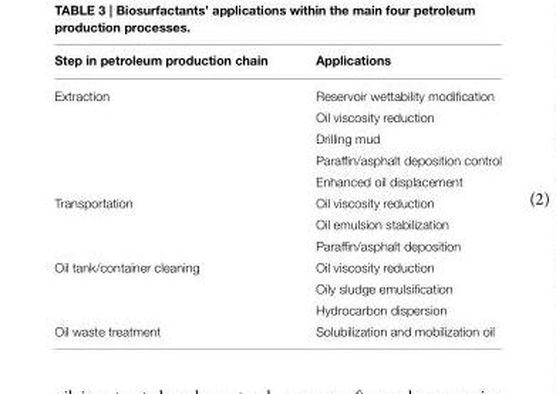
<table><thead><tr><td>Step in petroleum production chain</td><td>Applications</td></tr></thead><tbody><tr><td rowspan="5">Extraction</td><td>Reservoir wettability modification</td></tr><tr><td>Oil viscosity reduction</td></tr><tr><td>Drilling mud</td></tr><tr><td>Paraffin/asphalt deposition control</td></tr><tr><td>Enhanced oil displacement</td></tr><tr><td rowspan="3">Transportation</td><td>Oil viscosity reduction</td></tr><tr><td>Oil emulsion stabilization</td></tr><tr><td>Paraffin/asphalt deposition</td></tr><tr><td rowspan="3">Oil tank/container cleaning</td><td>Oil viscosity reduction</td></tr><tr><td>Oily sludge emulsification</td></tr><tr><td>Hydrocarbon dispersion</td></tr><tr><td>Oil waste treatment</td><td>Solubilization and mobilization oil</td></tr></tbody></table>